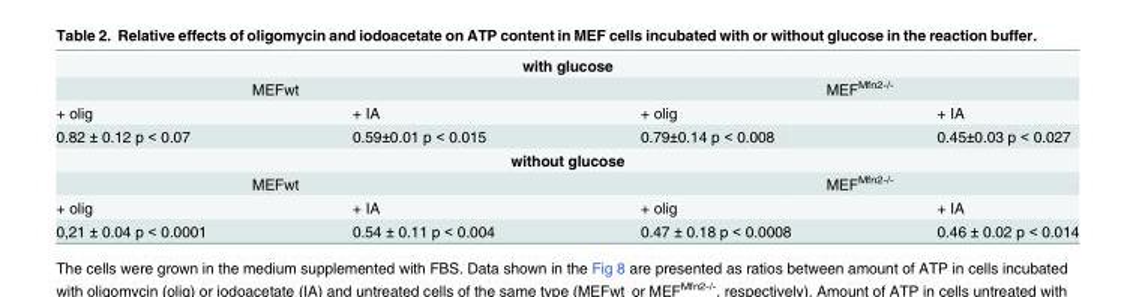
<table><tbody><tr><td colspan="4">with glucose</td></tr><tr><td colspan="2">MEFwt</td><td colspan="2">MEF<sup>Mfn2-/-</sup></td></tr><tr><td>+ olig</td><td>+ IA</td><td>+ olig</td><td>+ IA</td></tr><tr><td>0.82 ± 0.12 p &lt; 0.07</td><td>0.59±0.01 p &lt; 0.015</td><td>0.79±0.14 p &lt; 0.008</td><td>0.45±0.03 p &lt; 0.027</td></tr><tr><td colspan="4">without glucose</td></tr><tr><td colspan="2">MEFwt</td><td colspan="2">MEF<sup>Mfn2-/-</sup></td></tr><tr><td>+ olig</td><td>+ IA</td><td>+ olig</td><td>+ IA</td></tr><tr><td>0,21 ± 0.04 p &lt; 0.0001</td><td>0.54 ± 0.11 p &lt; 0.004</td><td>0.47 ± 0.18 p &lt; 0.0008</td><td>0.46 ± 0.02 p &lt; 0.014</td></tr></tbody></table>